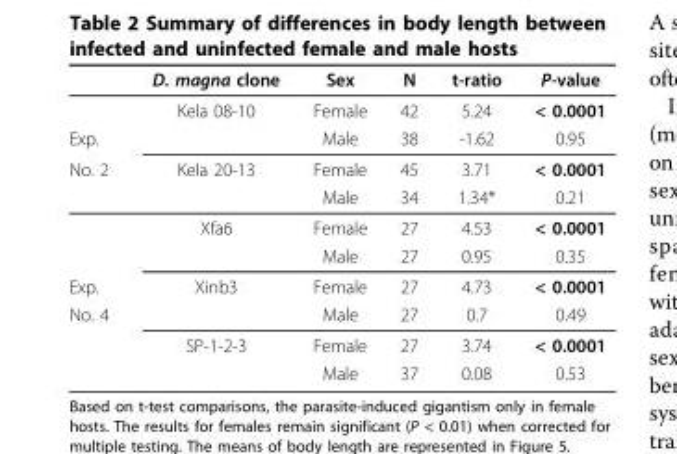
<table><thead><tr><td></td><td>D. magna clone</td><td>Sex</td><td>N</td><td>t-ratio</td><td>P-value</td></tr></thead><tbody><tr><td></td><td>Kela 08-10</td><td>Female</td><td>42</td><td>5.24</td><td>&lt; 0.0001</td></tr><tr><td>Exp.</td><td></td><td>Male</td><td>38</td><td>-1.62</td><td>0.95</td></tr><tr><td rowspan="4">No. 2</td><td>Kela 20-13</td><td>Female</td><td>45</td><td>3.71</td><td>&lt; 0.0001</td></tr><tr><td></td><td>Male</td><td>34</td><td>1.34*</td><td>0.21</td></tr><tr><td>Xfa6</td><td>Female</td><td>27</td><td>4.53</td><td>&lt; 0.0001</td></tr><tr><td></td><td>Male</td><td>27</td><td>0.95</td><td>0.35</td></tr><tr><td>Exp.</td><td>Xinb3</td><td>Female</td><td>27</td><td>4.73</td><td>&lt; 0.0001</td></tr><tr><td rowspan="3">No. 4</td><td></td><td>Male</td><td>27</td><td>0.7</td><td>0.49</td></tr><tr><td>SP-1-2-3</td><td>Female</td><td>27</td><td>3.74</td><td>&lt; 0.0001</td></tr><tr><td></td><td>Male</td><td>37</td><td>0.08</td><td>0.53</td></tr></tbody></table>